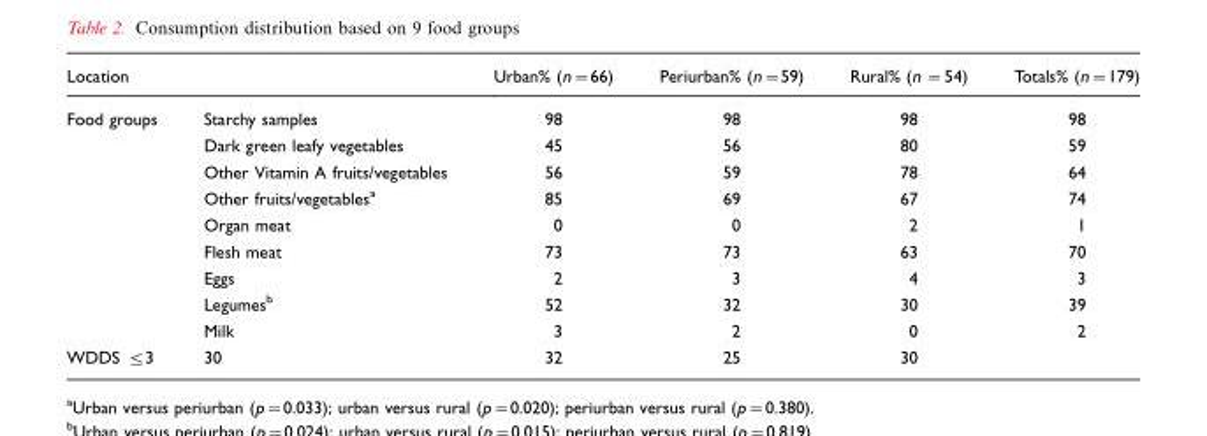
<table><thead><tr><td colspan="2">Location</td><td rowspan="2">Urban% (n=66) 98</td><td rowspan="2">Periurban% (n=59) 98</td><td rowspan="2">Rural% (n =54) 98</td><td rowspan="2">Totals% (n=179) 98</td></tr><tr><td>Food groups</td><td>Starchy samples</td></tr></thead><tbody><tr><td></td><td>Dark green leafy vegetables</td><td>45</td><td>56</td><td>80</td><td>59</td></tr><tr><td></td><td>Other Vitamin A fruits/vegetables</td><td>56</td><td>59</td><td>78</td><td>64</td></tr><tr><td></td><td>Other fruits/vegetables<sup>a</sup></td><td>85</td><td>69</td><td>67</td><td>74</td></tr><tr><td></td><td>Organ meat</td><td>0</td><td>0</td><td>2</td><td>1</td></tr><tr><td></td><td>Flesh meat</td><td>73</td><td>73</td><td>63</td><td>70</td></tr><tr><td></td><td>Eggs</td><td>2</td><td>3</td><td>4</td><td>3</td></tr><tr><td></td><td>Legumes<sup>b</sup></td><td>52</td><td>32</td><td>30</td><td>39</td></tr><tr><td></td><td>Milk</td><td>3</td><td>2</td><td>0</td><td>2</td></tr><tr><td>WDDS ≤3</td><td>30</td><td>32</td><td>25</td><td>30</td><td></td></tr></tbody></table>